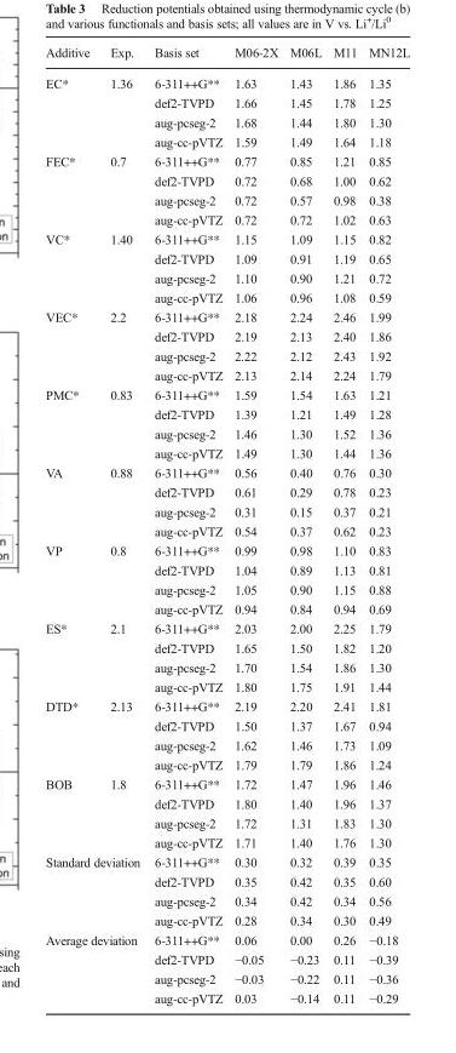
<table><thead><tr><td>Additive</td><td>Exp.</td><td>Basis set</td><td>M06-2X</td><td>M06L</td><td>M11</td><td>MN12L</td></tr></thead><tbody><tr><td rowspan="4">EC*</td><td rowspan="4">1.36</td><td>6-311++G**</td><td>1.63</td><td>1.43</td><td>1.86</td><td>1.35</td></tr><tr><td>def2-TVPD</td><td>1.66</td><td>1.45</td><td>1.78</td><td>1.25</td></tr><tr><td>aug-pcseg-2</td><td>1.68</td><td>1.44</td><td>1.80</td><td>1.30</td></tr><tr><td>aug-cc-pVTZ</td><td>1.59</td><td>1.49</td><td>1.64</td><td>1.18</td></tr><tr><td rowspan="4">FEC*</td><td rowspan="4">0.7</td><td>6-311++G**</td><td>0.77</td><td>0.85</td><td>1.21</td><td>0.85</td></tr><tr><td>def2-TVPD</td><td>0.72</td><td>0.68</td><td>1.00</td><td>0.62</td></tr><tr><td>aug-pcseg-2</td><td>0.72</td><td>0.57</td><td>0.98</td><td>0.38</td></tr><tr><td>aug-cc-pVTZ</td><td>0.72</td><td>0.72</td><td>1.02</td><td>0.63</td></tr><tr><td rowspan="4">VC*</td><td rowspan="4">1.40</td><td>6-311++G**</td><td>1.15</td><td>1.09</td><td>1.15</td><td>0.82</td></tr><tr><td>def2-TVPD</td><td>1.09</td><td>0.91</td><td>1.19</td><td>0.65</td></tr><tr><td>aug-pcseg-2</td><td>1.10</td><td>0.90</td><td>1.21</td><td>0.72</td></tr><tr><td>aug-cc-pVTZ</td><td>1.06</td><td>0.96</td><td>1.08</td><td>0.59</td></tr><tr><td rowspan="4">VEC*</td><td rowspan="4">2.2</td><td>6-311++G**</td><td>2.18</td><td>2.24</td><td>2.46</td><td>1.99</td></tr><tr><td>def2-TVPD</td><td>2.19</td><td>2.13</td><td>2.40</td><td>1.86</td></tr><tr><td>aug-pcseg-2</td><td>2.22</td><td>2.12</td><td>2.43</td><td>1.92</td></tr><tr><td>aug-cc-pVTZ</td><td>2.13</td><td>2.14</td><td>2.24</td><td>1.79</td></tr><tr><td rowspan="4">PMC*</td><td rowspan="4">0.83</td><td>6-311++G**</td><td>1.59</td><td>1.54</td><td>1.63</td><td>1.21</td></tr><tr><td>def2-TVPD</td><td>1.39</td><td>1.21</td><td>1.49</td><td>1.28</td></tr><tr><td>aug-pcseg-2</td><td>1.46</td><td>1.30</td><td>1.52</td><td>1.36</td></tr><tr><td>aug-cc-pVTZ</td><td>1.49</td><td>1.30</td><td>1.44</td><td>1.36</td></tr><tr><td rowspan="4">VA</td><td rowspan="4">0.88</td><td>6-311++G**</td><td>0.56</td><td>0.40</td><td>0.76</td><td>0.30</td></tr><tr><td>def2-TVPD</td><td>0.61</td><td>0.29</td><td>0.78</td><td>0.23</td></tr><tr><td>aug-pcseg-2</td><td>0.31</td><td>0.15</td><td>0.37</td><td>0.21</td></tr><tr><td>aug-cc-pVTZ</td><td>0.54</td><td>0.37</td><td>0.62</td><td>0.23</td></tr><tr><td rowspan="4">VP</td><td rowspan="4">0.8</td><td>6-311++G**</td><td>0.99</td><td>0.98</td><td>1.10</td><td>0.83</td></tr><tr><td>def2-TVPD</td><td>1.04</td><td>0.89</td><td>1.13</td><td>0.81</td></tr><tr><td>aug-pcseg-2</td><td>1.05</td><td>0.90</td><td>1.15</td><td>0.88</td></tr><tr><td>aug-cc-pVTZ</td><td>0.94</td><td>0.84</td><td>0.94</td><td>0.69</td></tr><tr><td rowspan="4">ES*</td><td rowspan="4">2.1</td><td>6-311++G**</td><td>2.03</td><td>2.00</td><td>2.25</td><td>1.79</td></tr><tr><td>def2-TVPD</td><td>1.65</td><td>1.50</td><td>1.82</td><td>1.20</td></tr><tr><td>aug-pcseg-2</td><td>1.70</td><td>1.54</td><td>1.86</td><td>1.30</td></tr><tr><td>aug-cc-pVTZ</td><td>1.80</td><td>1.75</td><td>1.91</td><td>1.44</td></tr><tr><td rowspan="4">DTD*</td><td rowspan="4">2.13</td><td>6-311++G**</td><td>2.19</td><td>2.20</td><td>2.41</td><td>1.81</td></tr><tr><td>def2-TVPD</td><td>1.50</td><td>1.37</td><td>1.67</td><td>0.94</td></tr><tr><td>aug-pcseg-2</td><td>1.62</td><td>1.46</td><td>1.73</td><td>1.09</td></tr><tr><td>aug-cc-pVTZ</td><td>1.79</td><td>1.79</td><td>1.86</td><td>1.24</td></tr><tr><td rowspan="4">BOB</td><td rowspan="4">1.8</td><td>6-311++G**</td><td>1.72</td><td>1.47</td><td>1.96</td><td>1.46</td></tr><tr><td>def2-TVPD</td><td>1.80</td><td>1.40</td><td>1.96</td><td>1.37</td></tr><tr><td>aug-pcseg-2</td><td>1.72</td><td>1.31</td><td>1.83</td><td>1.30</td></tr><tr><td>aug-cc-pVTZ</td><td>1.71</td><td>1.40</td><td>1.76</td><td>1.30</td></tr><tr><td rowspan="4" colspan="2">Standard deviation</td><td>6-311++G**</td><td>0.30</td><td>0.32</td><td>0.39</td><td>0.35</td></tr><tr><td>def2-TVPD</td><td>0.35</td><td>0.42</td><td>0.35</td><td>0.60</td></tr><tr><td>aug-pcseg-2</td><td>0.34</td><td>0.42</td><td>0.34</td><td>0.56</td></tr><tr><td>aug-cc-pVTZ</td><td>0.28</td><td>0.34</td><td>0.30</td><td>0.49</td></tr><tr><td rowspan="4" colspan="2">Average deviation</td><td>6-311++G**</td><td>0.06</td><td>0.00</td><td>0.26</td><td>−0.18</td></tr><tr><td>def2-TVPD</td><td>−0.05</td><td>−0.23</td><td>0.11</td><td>−0.39</td></tr><tr><td>aug-pcseg-2</td><td>−0.03</td><td>−0.22</td><td>0.11</td><td>−0.36</td></tr><tr><td>aug-cc-pVTZ</td><td>0.03</td><td>−0.14</td><td>0.11</td><td>−0.29</td></tr></tbody></table>